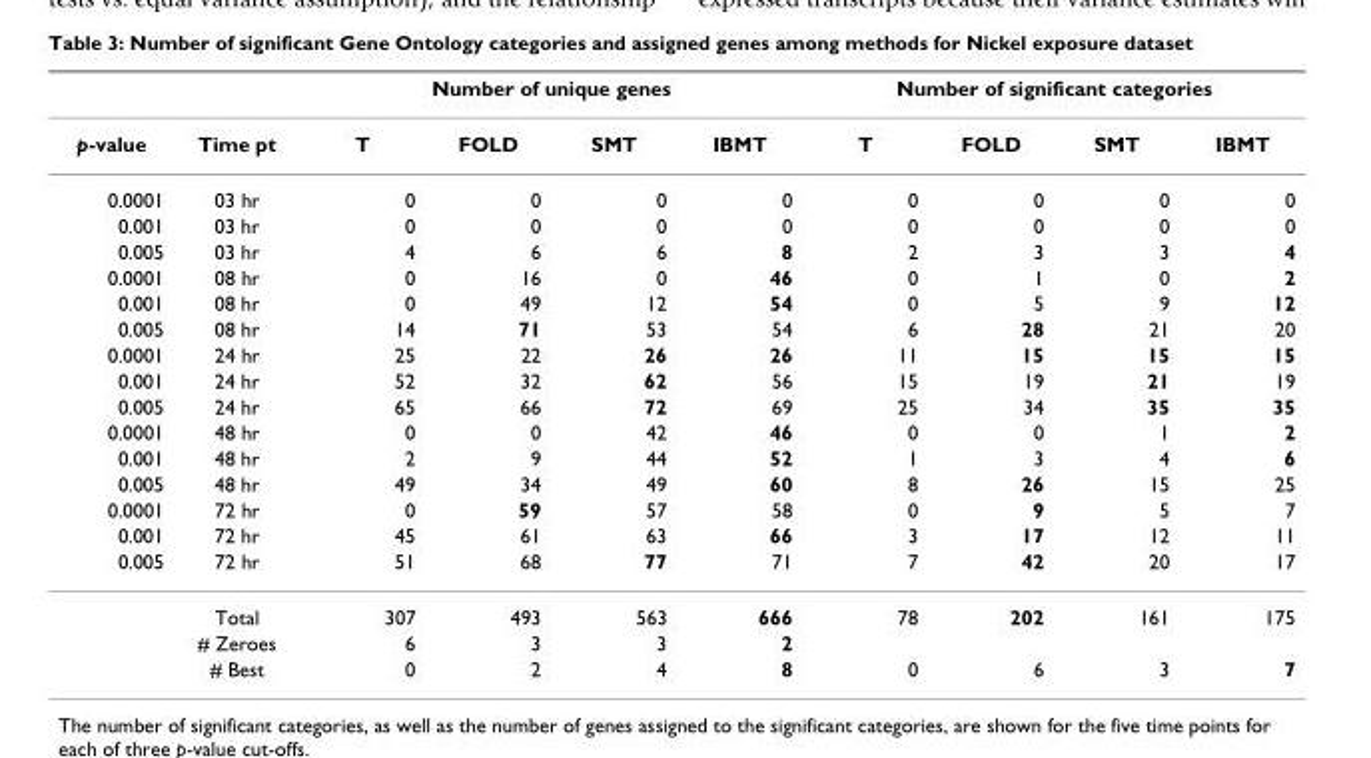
<table><thead><tr><td rowspan="2">p-value</td><td rowspan="2">Time pt</td><td colspan="4">Number of unique genes</td><td colspan="4">Number of significant categories</td></tr><tr><td>T</td><td>FOLD</td><td>SMT</td><td>IBMT</td><td>T</td><td>FOLD</td><td>SMT</td><td>IBMT</td></tr></thead><tbody><tr><td>0.0001</td><td>03 hr</td><td>0</td><td>0</td><td>0</td><td>0</td><td>0</td><td>0</td><td>0</td><td>0</td></tr><tr><td>0.001</td><td>03 hr</td><td>0</td><td>0</td><td>0</td><td>0</td><td>0</td><td>0</td><td>0</td><td>0</td></tr><tr><td>0.005</td><td>03 hr</td><td>4</td><td>6</td><td>6</td><td>8</td><td>2</td><td>3</td><td>3</td><td>4</td></tr><tr><td>0.0001</td><td>08 hr</td><td>0</td><td>16</td><td>0</td><td>46</td><td>0</td><td>1</td><td>0</td><td>2</td></tr><tr><td>0.001</td><td>08 hr</td><td>0</td><td>49</td><td>12</td><td>54</td><td>0</td><td>5</td><td>9</td><td>12</td></tr><tr><td>0.005</td><td>08 hr</td><td>14</td><td>71</td><td>53</td><td>54</td><td>6</td><td>28</td><td>21</td><td>20</td></tr><tr><td>0.0001</td><td>24 hr</td><td>25</td><td>22</td><td>26</td><td>26</td><td>11</td><td>15</td><td>15</td><td>15</td></tr><tr><td>0.001</td><td>24 hr</td><td>52</td><td>32</td><td>62</td><td>56</td><td>15</td><td>19</td><td>21</td><td>19</td></tr><tr><td>0.005</td><td>24 hr</td><td>65</td><td>66</td><td>72</td><td>69</td><td>25</td><td>34</td><td>35</td><td>35</td></tr><tr><td>0.0001</td><td>48 hr</td><td>0</td><td>0</td><td>42</td><td>46</td><td>0</td><td>0</td><td>1</td><td>2</td></tr><tr><td>0.001</td><td>48 hr</td><td>2</td><td>9</td><td>44</td><td>52</td><td>1</td><td>3</td><td>4</td><td>6</td></tr><tr><td>0.005</td><td>48 hr</td><td>49</td><td>34</td><td>49</td><td>60</td><td>8</td><td>26</td><td>15</td><td>25</td></tr><tr><td>0.0001</td><td>72 hr</td><td>0</td><td>59</td><td>57</td><td>58</td><td>0</td><td>9</td><td>5</td><td>7</td></tr><tr><td>0.001</td><td>72 hr</td><td>45</td><td>61</td><td>63</td><td>66</td><td>3</td><td>17</td><td>12</td><td>11</td></tr><tr><td rowspan="4">0.005</td><td>72 hr</td><td>51</td><td>68</td><td>77</td><td>71</td><td>7</td><td>42</td><td>20</td><td>17</td></tr><tr><td>Total</td><td>307</td><td>493</td><td>563</td><td>666</td><td>78</td><td>202</td><td>161</td><td>175</td></tr><tr><td># Zeroes</td><td>6</td><td>3</td><td>3</td><td>2</td><td></td><td></td><td></td><td></td></tr><tr><td># Best</td><td>0</td><td>2</td><td>4</td><td>8</td><td>0</td><td>6</td><td>3</td><td>7</td></tr></tbody></table>